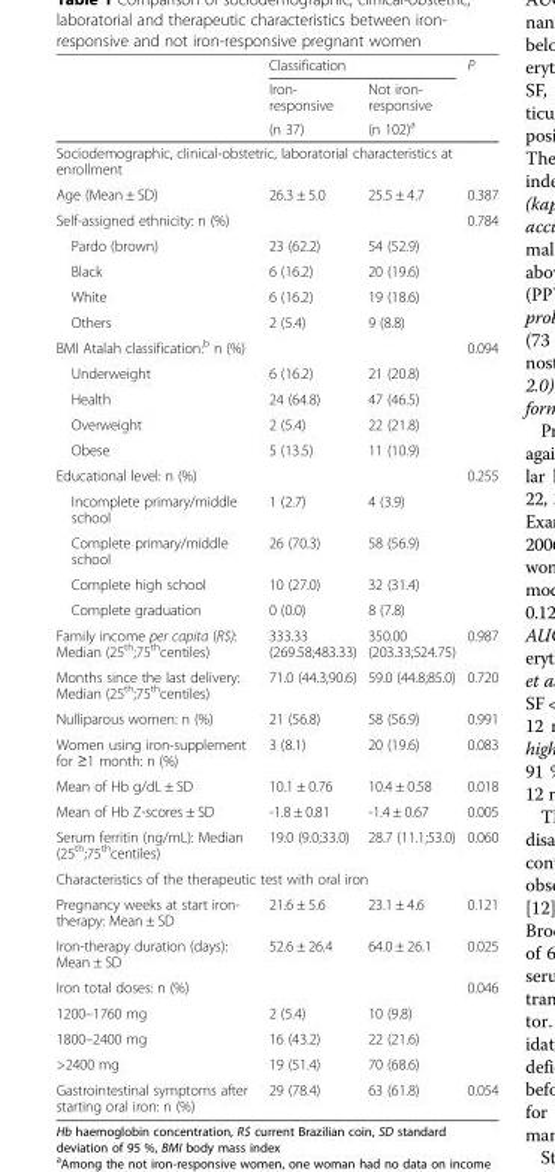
<table><thead><tr><td rowspan="3"></td><td colspan="2">Classification</td><td rowspan="3">P</td></tr><tr><td rowspan="2">Iron- responsive (n 37)</td><td rowspan="2">Not iron- responsive (n 102)<sup>a</sup></td></tr><tr></tr></thead><tbody><tr><td colspan="4">Sociodemographic, clinical-obstetric, laboratorial characteristics at enrollment</td></tr><tr><td>Age (Mean ± SD)</td><td>26.3 ± 5.0</td><td>25.5 ± 4.7</td><td>0.387</td></tr><tr><td>Self-assigned ethnicity: n (%)</td><td></td><td></td><td>0.784</td></tr><tr><td>Pardo (brown)</td><td>23 (62.2)</td><td>54 (52.9)</td><td rowspan="4"></td></tr><tr><td>Black</td><td>6 (16.2)</td><td>20 (19.6)</td></tr><tr><td>White</td><td>6 (16.2)</td><td>19 (18.6)</td></tr><tr><td>Others</td><td>2 (5.4)</td><td>9 (8.8)</td></tr><tr><td>BMI Atalah classification:<sup>b</sup> n (%)</td><td></td><td></td><td>0.094</td></tr><tr><td>Underweight</td><td>6 (16.2)</td><td>21 (20.8)</td><td rowspan="4"></td></tr><tr><td>Health</td><td>24 (64.8)</td><td>47 (46.5)</td></tr><tr><td>Overweight</td><td>2 (5.4)</td><td>22 (21.8)</td></tr><tr><td>Obese</td><td>5 (13.5)</td><td>11 (10.9)</td></tr><tr><td>Educational level: n (%)</td><td></td><td></td><td>0.255</td></tr><tr><td>Incomplete primary/middle school</td><td>1 (2.7)</td><td>4 (3.9)</td><td rowspan="4"></td></tr><tr><td>Complete primary/middle school</td><td>26 (70.3)</td><td>58 (56.9)</td></tr><tr><td>Complete high school</td><td>10 (27.0)</td><td>32 (31.4)</td></tr><tr><td>Complete graduation</td><td>0 (0.0)</td><td>8 (7.8)</td></tr><tr><td>Family income per capita (R$): Median (25<sup>th</sup>;75<sup>th</sup>centiles)</td><td>333.33 (269.58;483.33)</td><td>350.00 (203.33;524.75)</td><td>0.987</td></tr><tr><td>Months since the last delivery: Median (25<sup>th</sup>;75<sup>th</sup>centiles)</td><td>71.0 (44.3;90.6)</td><td>59.0 (44.8;85.0)</td><td>0.720</td></tr><tr><td>Nulliparous women: n (%)</td><td>21 (56.8)</td><td>58 (56.9)</td><td>0.991</td></tr><tr><td>Women using iron-supplement for ≥1 month: n (%)</td><td>3 (8.1)</td><td>20 (19.6)</td><td>0.083</td></tr><tr><td>Mean of Hb g/dL ± SD</td><td>10.1 ± 0.76</td><td>10.4 ± 0.58</td><td>0.018</td></tr><tr><td>Mean of Hb Z-scores ± SD</td><td>-1.8 ± 0.81</td><td>-1.4 ± 0.67</td><td>0.005</td></tr><tr><td>Serum ferritin (ng/mL): Median (25<sup>th</sup>;75<sup>th</sup>centiles)</td><td>19.0 (9.0;33.0)</td><td>28.7 (11.1;53.0)</td><td>0.060</td></tr><tr><td colspan="4">Characteristics of the therapeutic test with oral iron</td></tr><tr><td>Pregnancy weeks at start iron- therapy: Mean ± SD</td><td>21.6 ± 5.6</td><td>23.1 ± 4.6</td><td>0.121</td></tr><tr><td>Iron-therapy duration (days): Mean ± SD</td><td>52.6 ± 26.4</td><td>64.0 ± 26.1</td><td>0.025</td></tr><tr><td>Iron total doses: n (%)</td><td></td><td></td><td>0.046</td></tr><tr><td>1200–1760 mg</td><td>2 (5.4)</td><td>10 (9.8)</td><td rowspan="3"></td></tr><tr><td>1800–2400 mg</td><td>16 (43.2)</td><td>22 (21.6)</td></tr><tr><td>&gt;2400 mg</td><td>19 (51.4)</td><td>70 (68.6)</td></tr><tr><td>Gastrointestinal symptoms after starting oral iron: n (%)</td><td>29 (78.4)</td><td>63 (61.8)</td><td>0.054</td></tr></tbody></table>